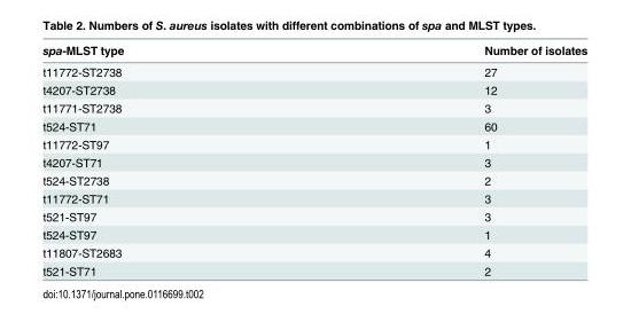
<table><thead><tr><td>spa-MLST type</td><td>Number of isolates</td></tr></thead><tbody><tr><td>t11772-ST2738</td><td>27</td></tr><tr><td>t4207-ST2738</td><td>12</td></tr><tr><td>t11771-ST2738</td><td>3</td></tr><tr><td>t524-ST71</td><td>60</td></tr><tr><td>t11772-ST97</td><td>1</td></tr><tr><td>t4207-ST71</td><td>3</td></tr><tr><td>t524-ST2738</td><td>2</td></tr><tr><td>t11772-ST71</td><td>3</td></tr><tr><td>t521-ST97</td><td>3</td></tr><tr><td>t524-ST97</td><td>1</td></tr><tr><td>t11807-ST2683</td><td>4</td></tr><tr><td>t521-ST71</td><td>2</td></tr></tbody></table>